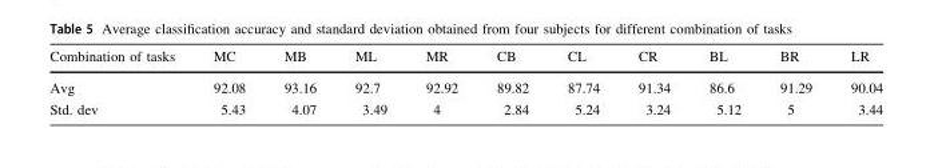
<table><thead><tr><td>Combination of tasks</td><td>MC</td><td>MB</td><td>ML</td><td>MR</td><td>CB</td><td>CL</td><td>CR</td><td>BL</td><td>BR</td><td>LR</td></tr></thead><tbody><tr><td>Avg</td><td>92.08</td><td>93.16</td><td>92.7</td><td>92.92</td><td>89.82</td><td>87.74</td><td>91.34</td><td>86.6</td><td>91.29</td><td>90.04</td></tr><tr><td>Std. dev</td><td>5.43</td><td>4.07</td><td>3.49</td><td>4</td><td>2.84</td><td>5.24</td><td>3.24</td><td>5.12</td><td>5</td><td>3.44</td></tr></tbody></table>